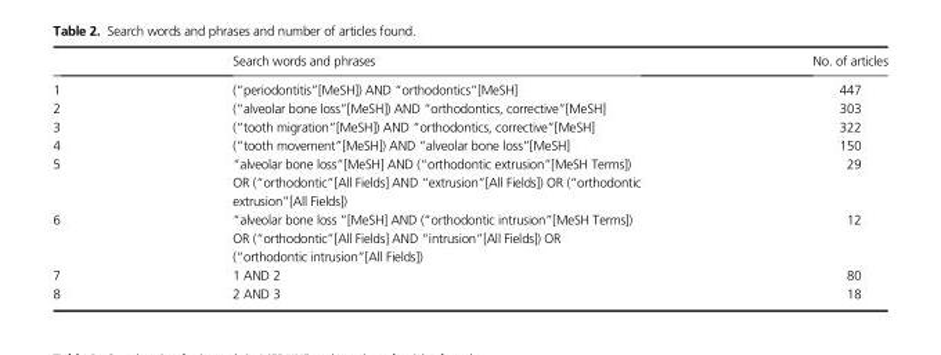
<table><thead><tr><td></td><td>Search words and phrases</td><td>No. of articles</td></tr></thead><tbody><tr><td>1</td><td>(“periodontitis”[MeSH]) AND “orthodontics”[MeSH]</td><td>447</td></tr><tr><td>2</td><td>(“alveolar bone loss”[MeSH]) AND “orthodontics, corrective”[MeSH]</td><td>303</td></tr><tr><td>3</td><td>(“tooth migration”[MeSH]) AND “orthodontics, corrective”[MeSH]</td><td>322</td></tr><tr><td>4</td><td>(“tooth movement”[MeSH]) AND “alveolar bone loss”[MeSH]</td><td>150</td></tr><tr><td>5</td><td>“alveolar bone loss”[MeSH] AND (“orthodontic extrusion”[MeSH Terms]) OR (“orthodontic”[All Fields] AND “extrusion”[All Fields]) OR (“orthodontic extrusion”[All Fields])</td><td>29</td></tr><tr><td>6</td><td>“alveolar bone loss ”[MeSH] AND (“orthodontic intrusion”[MeSH Terms]) OR (“orthodontic”[All Fields] AND “intrusion”[All Fields]) OR (“orthodontic intrusion”[All Fields])</td><td>12</td></tr><tr><td>7</td><td>1 AND 2</td><td>80</td></tr><tr><td>8</td><td>2 AND 3</td><td>18</td></tr></tbody></table>